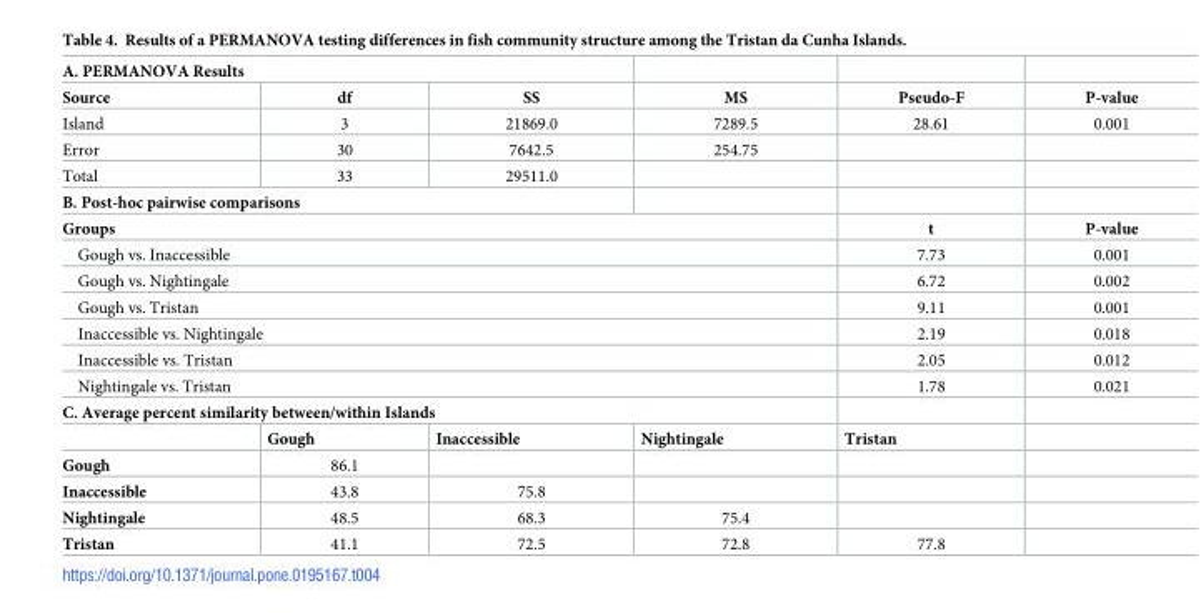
<table><tbody><tr><td colspan="6">A. PERMANOVA Results</td></tr><tr><td>Source</td><td>df</td><td>SS</td><td>MS</td><td>Pseudo-F</td><td>P-value</td></tr><tr><td>Island</td><td>3</td><td>21869.0</td><td>7289.5</td><td>28.61</td><td>0.001</td></tr><tr><td>Error</td><td>30</td><td>7642.5</td><td>254.75</td><td></td><td></td></tr><tr><td>Total</td><td>33</td><td>29511.0</td><td></td><td></td><td></td></tr><tr><td colspan="6">B. Post-hoc pairwise comparisons</td></tr><tr><td colspan="4">Groups</td><td>t</td><td>P-value</td></tr><tr><td colspan="4">Gough vs. Inaccessible</td><td>7.73</td><td>0.001</td></tr><tr><td colspan="4">Gough vs. Nightingale</td><td>6.72</td><td>0.002</td></tr><tr><td colspan="4">Gough vs. Tristan</td><td>9.11</td><td>0.001</td></tr><tr><td colspan="4">Inaccessible vs. Nightingale</td><td>2.19</td><td>0.018</td></tr><tr><td colspan="4">Inaccessible vs. Tristan</td><td>2.05</td><td>0.012</td></tr><tr><td colspan="4">Nightingale vs. Tristan</td><td>1.78</td><td>0.021</td></tr><tr><td colspan="6">C. Average percent similarity between/within Islands</td></tr><tr><td></td><td>Gough</td><td>Inaccessible</td><td>Nightingale</td><td>Tristan</td><td></td></tr><tr><td>Gough</td><td>86.1</td><td></td><td></td><td></td><td></td></tr><tr><td>Inaccessible</td><td>43.8</td><td>75.8</td><td></td><td></td><td></td></tr><tr><td>Nightingale</td><td>48.5</td><td>68.3</td><td>75.4</td><td></td><td></td></tr><tr><td>Tristan</td><td>41.1</td><td>72.5</td><td>72.8</td><td>77.8</td><td></td></tr></tbody></table>